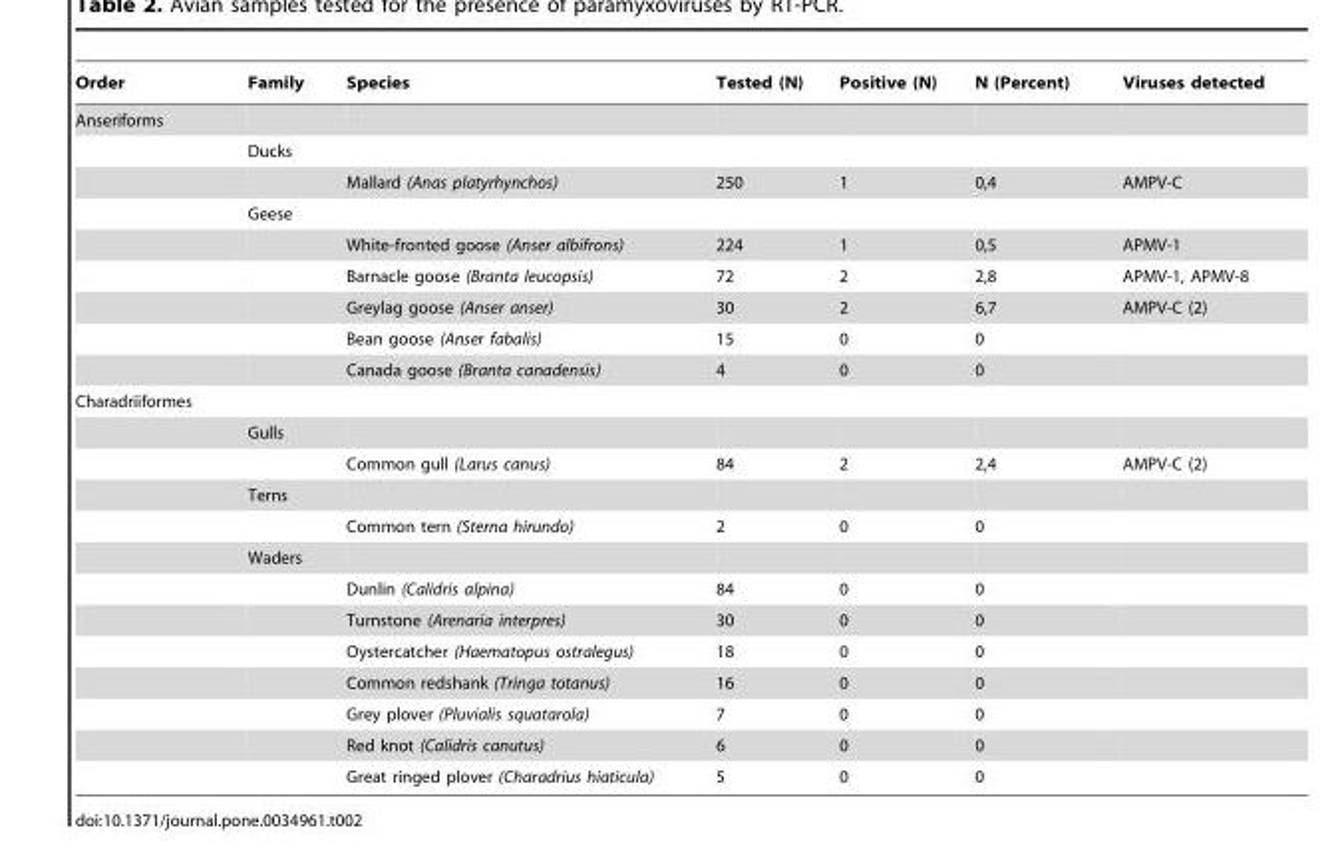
<table><thead><tr><td>Order</td><td>Family</td><td>Species</td><td>Tested (N)</td><td>Positive (N)</td><td>N (Percent)</td><td>Viruses detected</td></tr></thead><tbody><tr><td colspan="7">Anseriforms</td></tr><tr><td></td><td>Ducks</td><td></td><td></td><td></td><td></td><td></td></tr><tr><td></td><td></td><td>Mallard (Anas platyrhynchos)</td><td>250</td><td>1</td><td>0,4</td><td>AMPV-C</td></tr><tr><td></td><td>Geese</td><td></td><td></td><td></td><td></td><td></td></tr><tr><td></td><td></td><td>White-fronted goose (Anser albifrons)</td><td>224</td><td>1</td><td>0,5</td><td>APMV-1</td></tr><tr><td></td><td></td><td>Barnacle goose (Branta leucopsis)</td><td>72</td><td>2</td><td>2,8</td><td>APMV-1, APMV-8</td></tr><tr><td></td><td></td><td>Greylag goose (Anser anser)</td><td>30</td><td>2</td><td>6,7</td><td>AMPV-C (2)</td></tr><tr><td></td><td></td><td>Bean goose (Anser fabalis)</td><td>15</td><td>0</td><td>0</td><td></td></tr><tr><td></td><td></td><td>Canada goose (Branta canadensis)</td><td>4</td><td>0</td><td>0</td><td></td></tr><tr><td colspan="7">Charadriiformes</td></tr><tr><td></td><td>Gulls</td><td></td><td></td><td></td><td></td><td></td></tr><tr><td></td><td></td><td>Common gull (Larus canus)</td><td>84</td><td>2</td><td>2,4</td><td>AMPV-C (2)</td></tr><tr><td></td><td>Terns</td><td></td><td></td><td></td><td></td><td></td></tr><tr><td></td><td></td><td>Common tern (Sterna hirundo)</td><td>2</td><td>0</td><td>0</td><td></td></tr><tr><td></td><td>Waders</td><td></td><td></td><td></td><td></td><td></td></tr><tr><td></td><td></td><td>Dunlin (Calidris alpina)</td><td>84</td><td>0</td><td>0</td><td></td></tr><tr><td></td><td></td><td>Turnstone (Arenaria interpres)</td><td>30</td><td>0</td><td>0</td><td></td></tr><tr><td></td><td></td><td>Oystercatcher (Haematopus ostralegus)</td><td>18</td><td>0</td><td>0</td><td></td></tr><tr><td></td><td></td><td>Common redshank (Tringa totanus)</td><td>16</td><td>0</td><td>0</td><td></td></tr><tr><td></td><td></td><td>Grey plover (Pluvialis squatarola)</td><td>7</td><td>0</td><td>0</td><td></td></tr><tr><td></td><td></td><td>Red knot (Calidris canutus)</td><td>6</td><td>0</td><td>0</td><td></td></tr><tr><td></td><td></td><td>Great ringed plover (Charadrius hiaticula)</td><td>5</td><td>0</td><td>0</td><td></td></tr></tbody></table>